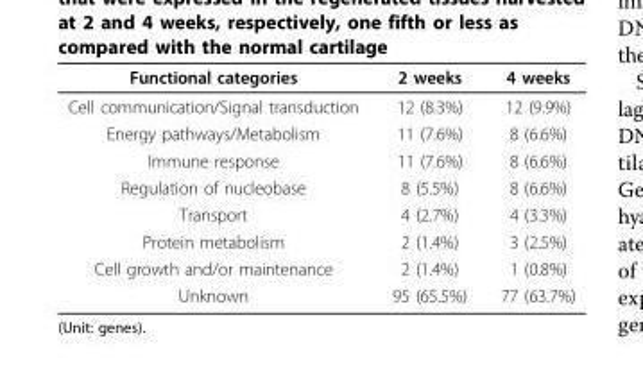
<table><thead><tr><td>Functional categories</td><td>2 weeks</td><td>4 weeks</td></tr></thead><tbody><tr><td>Cell communication/Signal transduction</td><td>12 (8.3%)</td><td>12 (9.9%)</td></tr><tr><td>Energy pathways/Metabolism</td><td>11 (7.6%)</td><td>8 (6.6%)</td></tr><tr><td>Immune response</td><td>11 (7.6%)</td><td>8 (6.6%)</td></tr><tr><td>Regulation of nucleobase</td><td>8 (5.5%)</td><td>8 (6.6%)</td></tr><tr><td>Transport</td><td>4 (2.7%)</td><td>4 (3.3%)</td></tr><tr><td>Protein metabolism</td><td>2 (1.4%)</td><td>3 (2.5%)</td></tr><tr><td>Cell growth and/or maintenance</td><td>2 (1.4%)</td><td>1 (0.8%)</td></tr><tr><td>Unknown</td><td>95 (65.5%)</td><td>77 (63.7%)</td></tr></tbody></table>